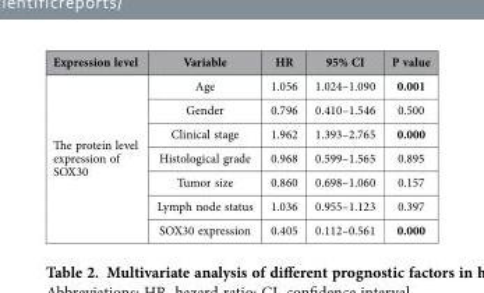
<table><thead><tr><td>Expression level</td><td>Variable</td><td>HR</td><td>95% CI</td><td>P value</td></tr></thead><tbody><tr><td rowspan="7">The protein level expression of SOX30</td><td>Age</td><td>1.056</td><td>1.024–1.090</td><td>0.001</td></tr><tr><td>Gender</td><td>0.796</td><td>0.410–1.546</td><td>0.500</td></tr><tr><td>Clinical stage</td><td>1.962</td><td>1.393–2.765</td><td>0.000</td></tr><tr><td>Histological grade</td><td>0.968</td><td>0.599–1.565</td><td>0.895</td></tr><tr><td>Tumor size</td><td>0.860</td><td>0.698–1.060</td><td>0.157</td></tr><tr><td>Lymph node status</td><td>1.036</td><td>0.955–1.123</td><td>0.397</td></tr><tr><td>SOX30 expression</td><td>0.405</td><td>0.112–0.561</td><td>0.000</td></tr></tbody></table>